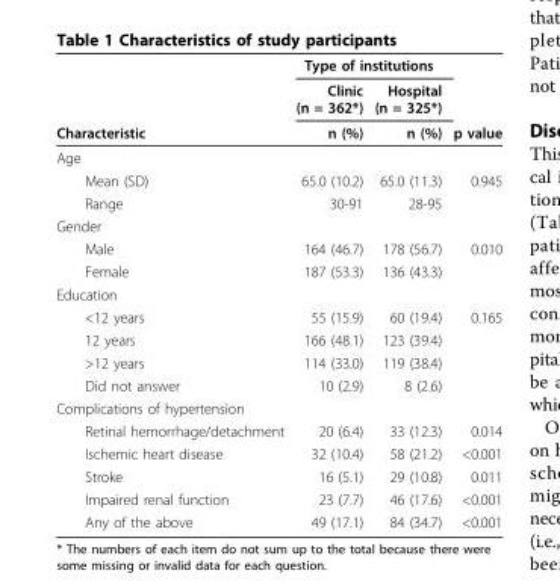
<table><thead><tr><td rowspan="3">Characteristic</td><td colspan="2">Type of institutions</td><td rowspan="3">p value</td></tr><tr><td rowspan="2">Clinic (n = 362*) n (%)</td><td rowspan="2">Hospital (n = 325*) n (%)</td></tr><tr></tr></thead><tbody><tr><td colspan="4">Age</td></tr><tr><td>Mean (SD)</td><td>65.0 (10.2)</td><td>65.0 (11.3)</td><td>0.945</td></tr><tr><td>Range</td><td>30-91</td><td>28-95</td><td></td></tr><tr><td colspan="4">Gender</td></tr><tr><td>Male</td><td>164 (46.7)</td><td>178 (56.7)</td><td>0.010</td></tr><tr><td>Female</td><td>187 (53.3)</td><td>136 (43.3)</td><td></td></tr><tr><td colspan="4">Education</td></tr><tr><td>&lt;12 years</td><td>55 (15.9)</td><td>60 (19.4)</td><td>0.165</td></tr><tr><td>12 years</td><td>166 (48.1)</td><td>123 (39.4)</td><td></td></tr><tr><td>&gt;12 years</td><td>114 (33.0)</td><td>119 (38.4)</td><td></td></tr><tr><td>Did not answer</td><td>10 (2.9)</td><td>8 (2.6)</td><td></td></tr><tr><td colspan="4">Complications of hypertension</td></tr><tr><td>Retinal hemorrhage/detachment</td><td>20 (6.4)</td><td>33 (12.3)</td><td>0.014</td></tr><tr><td>Ischemic heart disease</td><td>32 (10.4)</td><td>58 (21.2)</td><td>&lt;0.001</td></tr><tr><td>Stroke</td><td>16 (5.1)</td><td>29 (10.8)</td><td>0.011</td></tr><tr><td>Impaired renal function</td><td>23 (7.7)</td><td>46 (17.6)</td><td>&lt;0.001</td></tr><tr><td>Any of the above</td><td>49 (17.1)</td><td>84 (34.7)</td><td>&lt;0.001</td></tr></tbody></table>